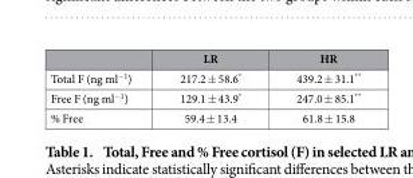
<table><thead><tr><td></td><td>LR</td><td>HR</td></tr></thead><tbody><tr><td>Total F (ng ml<sup>−1</sup>)</td><td>217.2 ± 58.6*</td><td>439.2 ± 31.1**</td></tr><tr><td>Free F (ng ml<sup>−1</sup>)</td><td>129.1 ± 43.9*</td><td>247.0 ± 85.1**</td></tr><tr><td>% Free</td><td>59.4 ± 13.4</td><td>61.8 ± 15.8</td></tr></tbody></table>